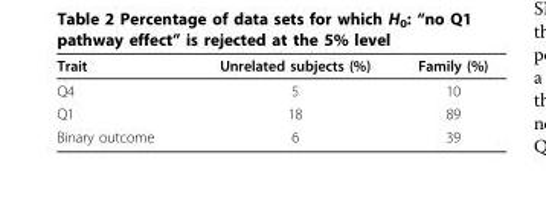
<table><thead><tr><td>Trait</td><td>Unrelated subjects (%)</td><td>Family (%)</td></tr></thead><tbody><tr><td>Q4</td><td>5</td><td>10</td></tr><tr><td>Q1</td><td>18</td><td>89</td></tr><tr><td>Binary outcome</td><td>6</td><td>39</td></tr></tbody></table>